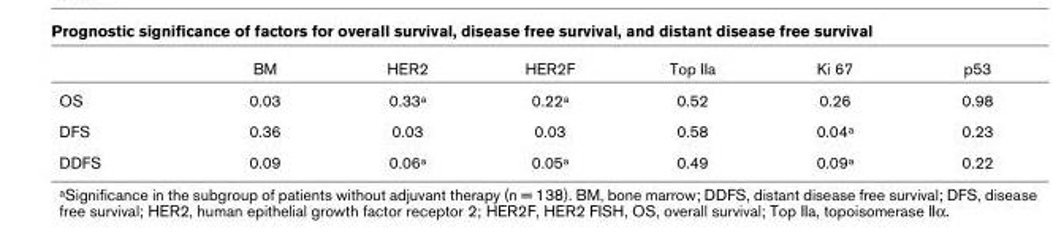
<table><thead><tr><td></td><td>BM</td><td>HER2</td><td>HER2F</td><td>Top IIa</td><td>Ki 67</td><td>p53</td></tr></thead><tbody><tr><td>OS</td><td>0.03</td><td>0.33a</td><td>0.22a</td><td>0.52</td><td>0.26</td><td>0.98</td></tr><tr><td>DFS</td><td>0.36</td><td>0.03</td><td>0.03</td><td>0.58</td><td>0.04a</td><td>0.23</td></tr><tr><td>DDFS</td><td>0.09</td><td>0.06a</td><td>0.05a</td><td>0.49</td><td>0.09a</td><td>0.22</td></tr></tbody></table>